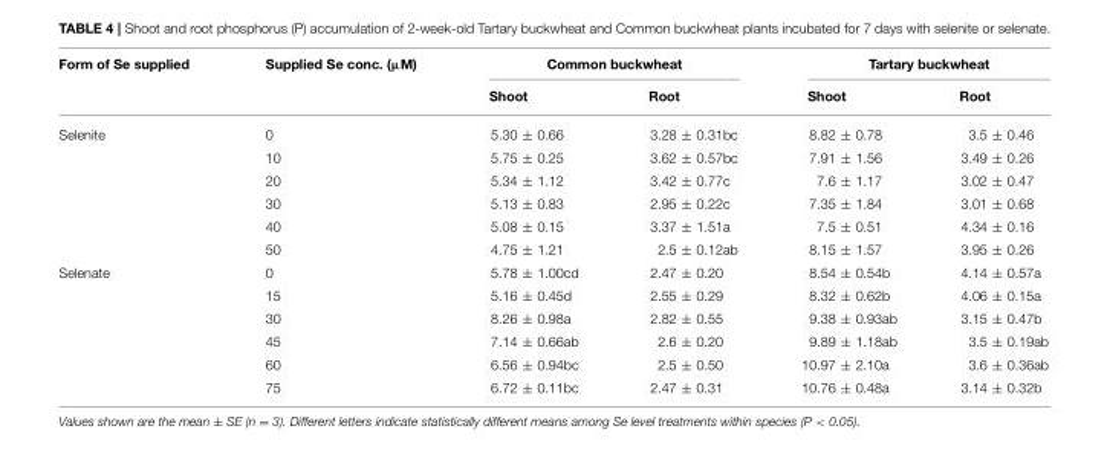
<table><thead><tr><td rowspan="2">Form of Se supplied</td><td rowspan="2">Supplied Se conc. (µM)</td><td colspan="2">Common buckwheat</td><td colspan="2">Tartary buckwheat</td></tr><tr><td>Shoot</td><td>Root</td><td>Shoot</td><td>Root</td></tr></thead><tbody><tr><td rowspan="6">Selenite</td><td>0</td><td>5.30 ± 0.66</td><td>3.28 ± 0.31bc</td><td>8.82 ± 0.78</td><td>3.5 ± 0.46</td></tr><tr><td>10</td><td>5.75 ± 0.25</td><td>3.62 ± 0.57bc</td><td>7.91 ± 1.56</td><td>3.49 ± 0.26</td></tr><tr><td>20</td><td>5.34 ± 1.12</td><td>3.42 ± 0.77c</td><td>7.6 ± 1.17</td><td>3.02 ± 0.47</td></tr><tr><td>30</td><td>5.13 ± 0.83</td><td>2.95 ± 0.22c</td><td>7.35 ± 1.84</td><td>3.01 ± 0.68</td></tr><tr><td>40</td><td>5.08 ± 0.15</td><td>3.37 ± 1.51a</td><td>7.5 ± 0.51</td><td>4.34 ± 0.16</td></tr><tr><td>50</td><td>4.75 ± 1.21</td><td>2.5 ± 0.12ab</td><td>8.15 ± 1.57</td><td>3.95 ± 0.26</td></tr><tr><td rowspan="6">Selenate</td><td>0</td><td>5.78 ± 1.00cd</td><td>2.47 ± 0.20</td><td>8.54 ± 0.54b</td><td>4.14 ± 0.57a</td></tr><tr><td>15</td><td>5.16 ± 0.45d</td><td>2.55 ± 0.29</td><td>8.32 ± 0.62b</td><td>4.06 ± 0.15a</td></tr><tr><td>30</td><td>8.26 ± 0.98a</td><td>2.82 ± 0.55</td><td>9.38 ± 0.93ab</td><td>3.15 ± 0.47b</td></tr><tr><td>45</td><td>7.14 ± 0.66ab</td><td>2.6 ± 0.20</td><td>9.89 ± 1.18ab</td><td>3.5 ± 0.19ab</td></tr><tr><td>60</td><td>6.56 ± 0.94bc</td><td>2.5 ± 0.50</td><td>10.97 ± 2.10a</td><td>3.6 ± 0.36ab</td></tr><tr><td>75</td><td>6.72 ± 0.11bc</td><td>2.47 ± 0.31</td><td>10.76 ± 0.48a</td><td>3.14 ± 0.32b</td></tr></tbody></table>